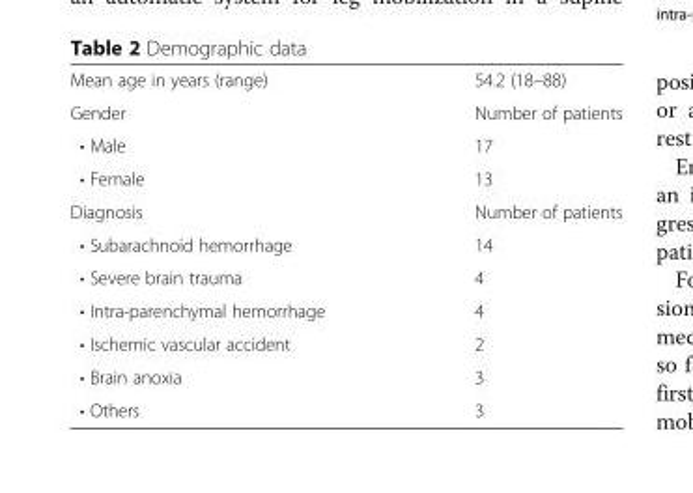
<table><tbody><tr><td>Mean age in years (range)</td><td>54.2 (18–88)</td></tr><tr><td>Gender</td><td>Number of patients</td></tr><tr><td>• Male</td><td>17</td></tr><tr><td>• Female</td><td>13</td></tr><tr><td>Diagnosis</td><td>Number of patients</td></tr><tr><td>• Subarachnoid hemorrhage</td><td>14</td></tr><tr><td>• Severe brain trauma</td><td>4</td></tr><tr><td>• Intra-parenchymal hemorrhage</td><td>4</td></tr><tr><td>• Ischemic vascular accident</td><td>2</td></tr><tr><td>• Brain anoxia</td><td>3</td></tr><tr><td>• Others</td><td>3</td></tr></tbody></table>